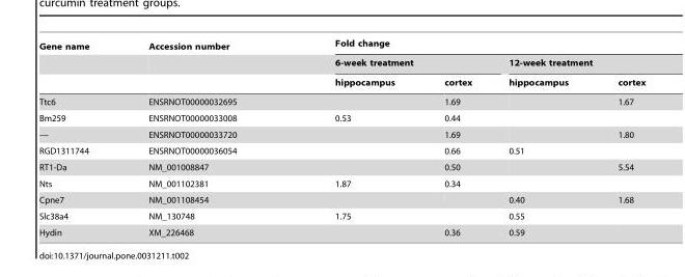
<table><thead><tr><td rowspan="3">Gene name</td><td rowspan="3">Accession number</td><td colspan="4">Fold change</td></tr><tr><td colspan="2">6-week treatment</td><td colspan="2">12-week treatment</td></tr><tr><td>hippocampus</td><td>cortex</td><td>hippocampus</td><td>cortex</td></tr></thead><tbody><tr><td>Ttc6</td><td>ENSRNOT00000032695</td><td></td><td>1.69</td><td></td><td>1.67</td></tr><tr><td>Bm259</td><td>ENSRNOT00000033008</td><td>0.53</td><td>0.44</td><td></td><td></td></tr><tr><td>—</td><td>ENSRNOT00000033720</td><td></td><td>1.69</td><td></td><td>1.80</td></tr><tr><td>RGD1311744</td><td>ENSRNOT00000036054</td><td></td><td>0.66</td><td>0.51</td><td></td></tr><tr><td>RT1-Da</td><td>NM_001008847</td><td></td><td>0.50</td><td></td><td>5.54</td></tr><tr><td>Nts</td><td>NM_001102381</td><td>1.87</td><td>0.34</td><td></td><td></td></tr><tr><td>Cpne7</td><td>NM_001108454</td><td></td><td></td><td>0.40</td><td>1.68</td></tr><tr><td>Slc38a4</td><td>NM_130748</td><td>1.75</td><td></td><td>0.55</td><td></td></tr><tr><td>Hydin</td><td>XM_226468</td><td></td><td>0.36</td><td>0.59</td><td></td></tr></tbody></table>